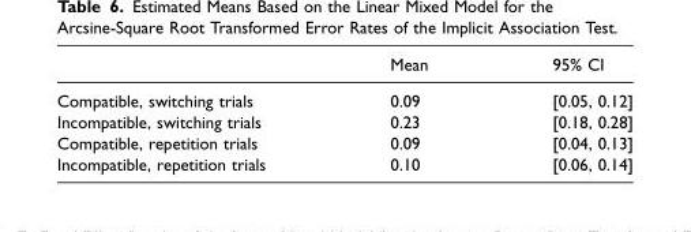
<table><thead><tr><td></td><td>Mean</td><td>95% CI</td></tr></thead><tbody><tr><td>Compatible, switching trials</td><td>0.09</td><td>[0.05, 0.12]</td></tr><tr><td>Incompatible, switching trials</td><td>0.23</td><td>[0.18, 0.28]</td></tr><tr><td>Compatible, repetition trials</td><td>0.09</td><td>[0.04, 0.13]</td></tr><tr><td>Incompatible, repetition trials</td><td>0.10</td><td>[0.06, 0.14]</td></tr></tbody></table>